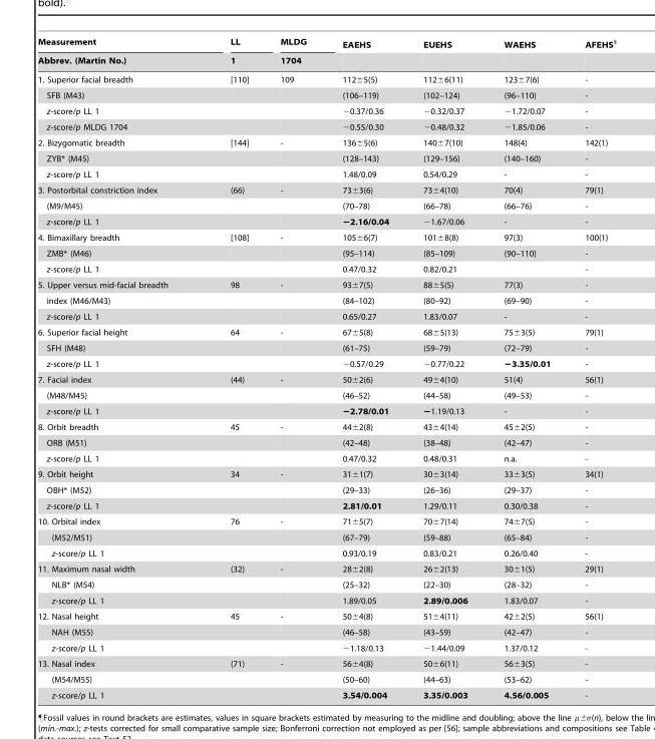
<table><thead><tr><td rowspan="2">Measurement Abbrev. (Martin No.)</td><td rowspan="2">LL 1</td><td rowspan="2">MLDG 1704</td><td rowspan="2">EAEHS</td><td rowspan="2">EUEHS</td><td rowspan="2">WAEHS</td><td rowspan="2">AFEHS§</td></tr><tr></tr></thead><tbody><tr><td>1. Superior facial breadth</td><td>[110]</td><td>109</td><td>112±5(5)</td><td>112±6(11)</td><td>123±7(6)</td><td>-</td></tr><tr><td>SFB (M43)</td><td></td><td></td><td>(106–119)</td><td>(102–124)</td><td>(96–110)</td><td>-</td></tr><tr><td>z-score/p LL 1</td><td></td><td></td><td>−0.37/0.36</td><td>−0.32/0.37</td><td>−1.72/0.07</td><td>-</td></tr><tr><td>z-score/p MLDG 1704</td><td></td><td></td><td>−0.55/0.30</td><td>−0.48/0.32</td><td>−1.85/0.06</td><td>-</td></tr><tr><td>2. Bizygomatic breadth</td><td>[144]</td><td>-</td><td>136±5(6)</td><td>140±7(10)</td><td>148(4)</td><td>142(1)</td></tr><tr><td>ZYB* (M45)</td><td></td><td></td><td>(128–143)</td><td>(129–156)</td><td>(140–160)</td><td>-</td></tr><tr><td>z-score/p LL 1</td><td></td><td></td><td>1.48/0.09</td><td>0.54/0.29</td><td>-</td><td>-</td></tr><tr><td>3. Postorbital constriction index</td><td>(66)</td><td>-</td><td>73±3(6)</td><td>73±4(10)</td><td>70(4)</td><td>79(1)</td></tr><tr><td>(M9/M45)</td><td></td><td></td><td>(70–78)</td><td>(66–78)</td><td>(66–76)</td><td>-</td></tr><tr><td>z-score/p LL 1</td><td></td><td></td><td>−2.16/0.04</td><td>−1.67/0.06</td><td>-</td><td>-</td></tr><tr><td>4. Bimaxillary breadth</td><td>[108]</td><td>-</td><td>105±6(7)</td><td>101±8(8)</td><td>97(3)</td><td>100(1)</td></tr><tr><td>ZMB* (M46)</td><td></td><td></td><td>(95–114)</td><td>(85–109)</td><td>(90–110)</td><td>-</td></tr><tr><td>z-score/p LL 1</td><td></td><td></td><td>0.47/0.32</td><td>0.82/0.21</td><td></td><td>-</td></tr><tr><td>5. Upper versus mid-facial breadth</td><td>98</td><td>-</td><td>93±7(5)</td><td>88±5(5)</td><td>77(3)</td><td>-</td></tr><tr><td>index (M46/M43)</td><td></td><td></td><td>(84–102)</td><td>(80–92)</td><td>(69–90)</td><td>-</td></tr><tr><td>z-score/p LL 1</td><td></td><td></td><td>0.65/0.27</td><td>1.83/0.07</td><td>-</td><td>-</td></tr><tr><td>6. Superior facial height</td><td>64</td><td>-</td><td>67±5(8)</td><td>68±5(13)</td><td>75±3(5)</td><td>79(1)</td></tr><tr><td>SFH (M48)</td><td></td><td></td><td>(61–75)</td><td>(59–79)</td><td>(72–79)</td><td>-</td></tr><tr><td>z-score/p LL 1</td><td></td><td></td><td>−0.57/0.29</td><td>−0.77/0.22</td><td>−3.35/0.01</td><td>-</td></tr><tr><td>7. Facial index</td><td>(44)</td><td>-</td><td>50±2(6)</td><td>49±4(10)</td><td>51(4)</td><td>56(1)</td></tr><tr><td>(M48/M45)</td><td></td><td></td><td>(46–52)</td><td>(44–58)</td><td>(49–53)</td><td>-</td></tr><tr><td>z-score/p LL 1</td><td></td><td></td><td>−2.78/0.01</td><td>−1.19/0.13</td><td>-</td><td>-</td></tr><tr><td>8. Orbit breadth</td><td>45</td><td>-</td><td>44±2(8)</td><td>43±4(14)</td><td>45±2(5)</td><td>-</td></tr><tr><td>ORB (M51)</td><td></td><td></td><td>(42–48)</td><td>(38–48)</td><td>(42–47)</td><td>-</td></tr><tr><td>z-score/p LL 1</td><td></td><td></td><td>0.47/0.32</td><td>0.48/0.31</td><td>n.a.</td><td>-</td></tr><tr><td>9. Orbit height</td><td>34</td><td>-</td><td>31±1(7)</td><td>30±3(14)</td><td>33±3(5)</td><td>34(1)</td></tr><tr><td>OBH* (M52)</td><td></td><td></td><td>(29–33)</td><td>(26–36)</td><td>(29–37)</td><td>-</td></tr><tr><td>z-score/p LL 1</td><td></td><td></td><td>2.81/0.01</td><td>1.29/0.11</td><td>0.30/0.38</td><td>-</td></tr><tr><td>10. Orbital index</td><td>76</td><td>-</td><td>71±5(7)</td><td>70±7(14)</td><td>74±7(5)</td><td>-</td></tr><tr><td>(M52/M51)</td><td></td><td></td><td>(67–79)</td><td>(59–88)</td><td>(65–84)</td><td>-</td></tr><tr><td>z-score/p LL 1</td><td></td><td></td><td>0.93/0.19</td><td>0.83/0.21</td><td>0.26/0.40</td><td>-</td></tr><tr><td>11. Maximum nasal width</td><td>(32)</td><td>-</td><td>28±2(8)</td><td>26±2(13)</td><td>30±1(5)</td><td>29(1)</td></tr><tr><td>NLB* (M54)</td><td></td><td></td><td>(25–32)</td><td>(22–30)</td><td>(28–32)</td><td>-</td></tr><tr><td>z-score/p LL 1</td><td></td><td></td><td>1.89/0.05</td><td>2.89/0.006</td><td>1.83/0.07</td><td>-</td></tr><tr><td>12. Nasal height</td><td>45</td><td>-</td><td>50±4(8)</td><td>51±4(11)</td><td>42±2(5)</td><td>56(1)</td></tr><tr><td>NAH (M55)</td><td></td><td></td><td>(46–58)</td><td>(43–59)</td><td>(42–47)</td><td>-</td></tr><tr><td>z-score/p LL 1</td><td></td><td></td><td>−1.18/0.13</td><td>−1.44/0.09</td><td>1.37/0.12</td><td>-</td></tr><tr><td>13. Nasal index</td><td>(71)</td><td>-</td><td>56±4(8)</td><td>50±6(11)</td><td>56±3(5)</td><td>-</td></tr><tr><td>(M54/M55)</td><td></td><td></td><td>(50–60)</td><td>(44–63)</td><td>(53–62)</td><td>-</td></tr><tr><td>z-score/p LL 1</td><td></td><td></td><td>3.54/0.004</td><td>3.35/0.003</td><td>4.56/0.005</td><td>-</td></tr></tbody></table>